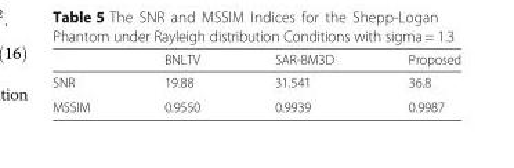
<table><thead><tr><td></td><td>BNLTV</td><td>SAR-BM3D</td><td>Proposed</td></tr></thead><tbody><tr><td>SNR</td><td>19.88</td><td>31.541</td><td>36.8</td></tr><tr><td>MSSIM</td><td>0.9550</td><td>0.9939</td><td>0.9987</td></tr></tbody></table>